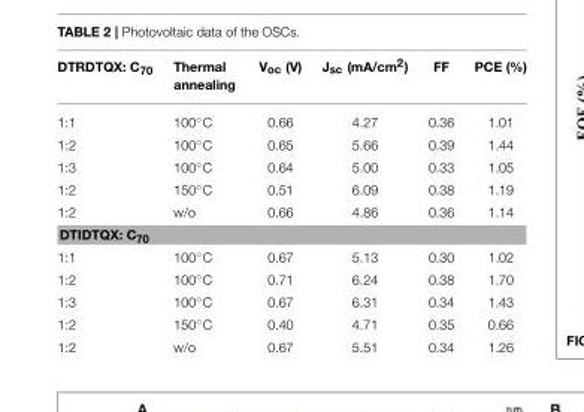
<table><thead><tr><td>DTRDTQX: C<sub>70</sub></td><td>Thermal annealing</td><td>V<sub>oc</sub> (V)</td><td>J<sub>sc</sub> (mA/cm<sup>2</sup>)</td><td>FF</td><td>PCE (%)</td></tr></thead><tbody><tr><td>1:1</td><td>100◦C</td><td>0.66</td><td>4.27</td><td>0.36</td><td>1.01</td></tr><tr><td>1:2</td><td>100◦C</td><td>0.65</td><td>5.66</td><td>0.39</td><td>1.44</td></tr><tr><td>1:3</td><td>100◦C</td><td>0.64</td><td>5.00</td><td>0.33</td><td>1.05</td></tr><tr><td>1:2</td><td>150◦C</td><td>0.51</td><td>6.09</td><td>0.38</td><td>1.19</td></tr><tr><td>1:2</td><td>w/o</td><td>0.66</td><td>4.86</td><td>0.36</td><td>1.14</td></tr><tr><td colspan="6">DTIDTQX: C<sub>70</sub></td></tr><tr><td>1:1</td><td>100◦C</td><td>0.67</td><td>5.13</td><td>0.30</td><td>1.02</td></tr><tr><td>1:2</td><td>100◦C</td><td>0.71</td><td>6.24</td><td>0.38</td><td>1.70</td></tr><tr><td>1:3</td><td>100◦C</td><td>0.67</td><td>6.31</td><td>0.34</td><td>1.43</td></tr><tr><td>1:2</td><td>150◦C</td><td>0.40</td><td>4.71</td><td>0.35</td><td>0.66</td></tr><tr><td>1:2</td><td>w/o</td><td>0.67</td><td>5.51</td><td>0.34</td><td>1.26</td></tr></tbody></table>